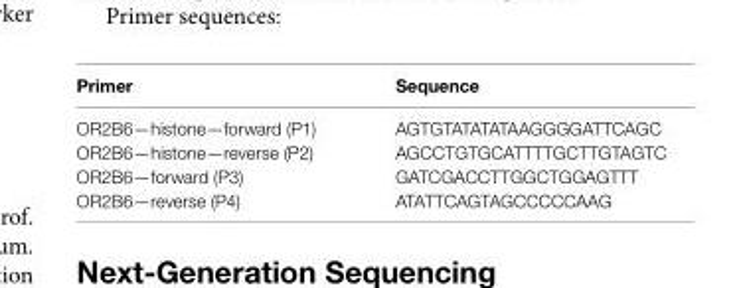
<table><thead><tr><td>Primer</td><td>sequence</td></tr></thead><tbody><tr><td>OR2B6—histone—forward (P1)</td><td>AGTGTATATATAAGGGGATTCAGC</td></tr><tr><td>OR2B6—histone—reverse (P2)</td><td>AGCCTGTGCATTTTGCTTGTAGTC</td></tr><tr><td>OR2B6—forward (P3)</td><td>GATCGACCTTGGCTGGAGTTT</td></tr><tr><td>OR2B6—reverse (P4)</td><td>ATATTCAGTAGCCCCCAAG</td></tr></tbody></table>